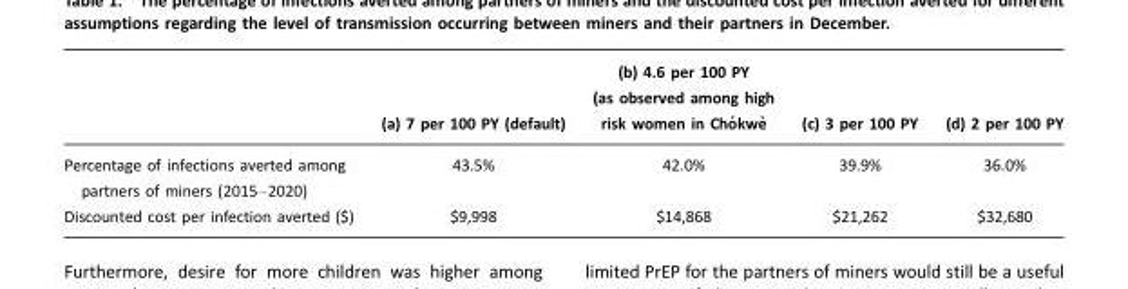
<table><thead><tr><td></td><td>(a) 7 per 100 PY (default)</td><td>(b) 4.6 per 100 PY (as observed among high risk women in Cho´kwe`</td><td>(c) 3 per 100 PY</td><td>(d) 2 per 100 PY</td></tr></thead><tbody><tr><td>Percentage of infections averted among partners of miners (2015–2020)</td><td>43.5%</td><td>42.0%</td><td>39.9%</td><td>36.0%</td></tr><tr><td>Discounted cost per infection averted ($)</td><td>$9,998</td><td>$14,868</td><td>$21,262</td><td>$32,680</td></tr></tbody></table>